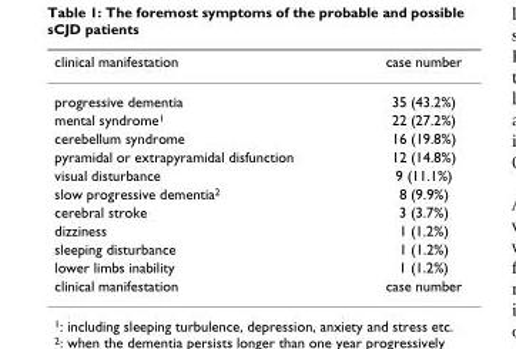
<table><thead><tr><td>clinical manifestation</td><td>case number</td></tr></thead><tbody><tr><td>progressive dementia</td><td>35 (43.2%)</td></tr><tr><td>mental syndrome<sup>1</sup></td><td>22 (27.2%)</td></tr><tr><td>cerebellum syndrome</td><td>16 (19.8%)</td></tr><tr><td>pyramidal or extrapyramidal disfunction</td><td>12 (14.8%)</td></tr><tr><td>visual disturbance</td><td>9 (11.1%)</td></tr><tr><td>slow progressive dementia<sup>2</sup></td><td>8 (9.9%)</td></tr><tr><td>cerebral stroke</td><td>3 (3.7%)</td></tr><tr><td>dizziness</td><td>1 (1.2%)</td></tr><tr><td>sleeping disturbance</td><td>1 (1.2%)</td></tr><tr><td>lower limbs inability</td><td>1 (1.2%)</td></tr><tr><td>clinical manifestation</td><td>case number</td></tr></tbody></table>